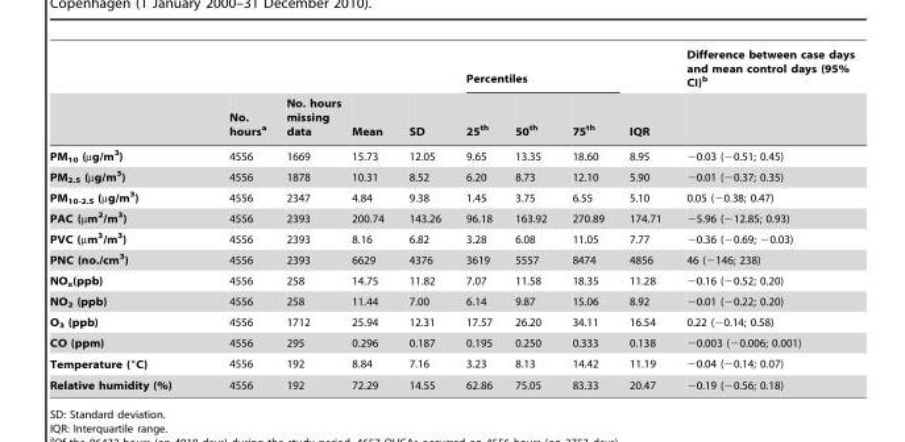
<table><thead><tr><td rowspan="2"></td><td rowspan="2">No. hours<sup>a</sup></td><td rowspan="2">No. hours missing data</td><td rowspan="2">Mean</td><td rowspan="2">SD</td><td colspan="3">Percentiles</td><td rowspan="2">IQR</td><td rowspan="2">Difference between case days and mean control days (95% CI)<sup>b</sup></td></tr><tr><td>25<sup>th</sup></td><td>50<sup>th</sup></td><td>75<sup>th</sup></td></tr></thead><tbody><tr><td>PM<sub>10</sub> (µg/m<sup>3</sup>)</td><td>4556</td><td>1669</td><td>15.73</td><td>12.05</td><td>9.65</td><td>13.35</td><td>18.60</td><td>8.95</td><td>−0.03 (−0.51; 0.45)</td></tr><tr><td>PM<sub>2.5</sub> (µg/m<sup>3</sup>)</td><td>4556</td><td>1878</td><td>10.31</td><td>8.52</td><td>6.20</td><td>8.73</td><td>12.10</td><td>5.90</td><td>−0.01 (−0.37; 0.35)</td></tr><tr><td>PM<sub>10-2.5</sub> (µg/m<sup>3</sup>)</td><td>4556</td><td>2347</td><td>4.84</td><td>9.38</td><td>1.45</td><td>3.75</td><td>6.55</td><td>5.10</td><td>0.05 (−0.38; 0.47)</td></tr><tr><td>PAC (µm<sup>2</sup>/m<sup>3</sup>)</td><td>4556</td><td>2393</td><td>200.74</td><td>143.26</td><td>96.18</td><td>163.92</td><td>270.89</td><td>174.71</td><td>−5.96 (−12.85; 0.93)</td></tr><tr><td>PVC (µm<sup>3</sup>/m<sup>3</sup>)</td><td>4556</td><td>2393</td><td>8.16</td><td>6.82</td><td>3.28</td><td>6.08</td><td>11.05</td><td>7.77</td><td>−0.36 (−0.69; −0.03)</td></tr><tr><td>PNC (no./cm<sup>3</sup>)</td><td>4556</td><td>2393</td><td>6629</td><td>4376</td><td>3619</td><td>5557</td><td>8474</td><td>4856</td><td>46 (−146; 238)</td></tr><tr><td>NO<sub>x</sub>(ppb)</td><td>4556</td><td>258</td><td>14.75</td><td>11.82</td><td>7.07</td><td>11.58</td><td>18.35</td><td>11.28</td><td>−0.16 (−0.52; 0.20)</td></tr><tr><td>NO<sub>2</sub> (ppb)</td><td>4556</td><td>258</td><td>11.44</td><td>7.00</td><td>6.14</td><td>9.87</td><td>15.06</td><td>8.92</td><td>−0.01 (−0.22; 0.20)</td></tr><tr><td>O<sub>3</sub> (ppb)</td><td>4556</td><td>1712</td><td>25.94</td><td>12.31</td><td>17.57</td><td>26.20</td><td>34.11</td><td>16.54</td><td>0.22 (−0.14; 0.58)</td></tr><tr><td>CO (ppm)</td><td>4556</td><td>295</td><td>0.296</td><td>0.187</td><td>0.195</td><td>0.250</td><td>0.333</td><td>0.138</td><td>−0.003 (−0.006; 0.001)</td></tr><tr><td>Temperature (°C)</td><td>4556</td><td>192</td><td>8.84</td><td>7.16</td><td>3.23</td><td>8.13</td><td>14.42</td><td>11.19</td><td>−0.04 (−0.14; 0.07)</td></tr><tr><td>Relative humidity (%)</td><td>4556</td><td>192</td><td>72.29</td><td>14.55</td><td>62.86</td><td>75.05</td><td>83.33</td><td>20.47</td><td>−0.19 (−0.56; 0.18)</td></tr></tbody></table>